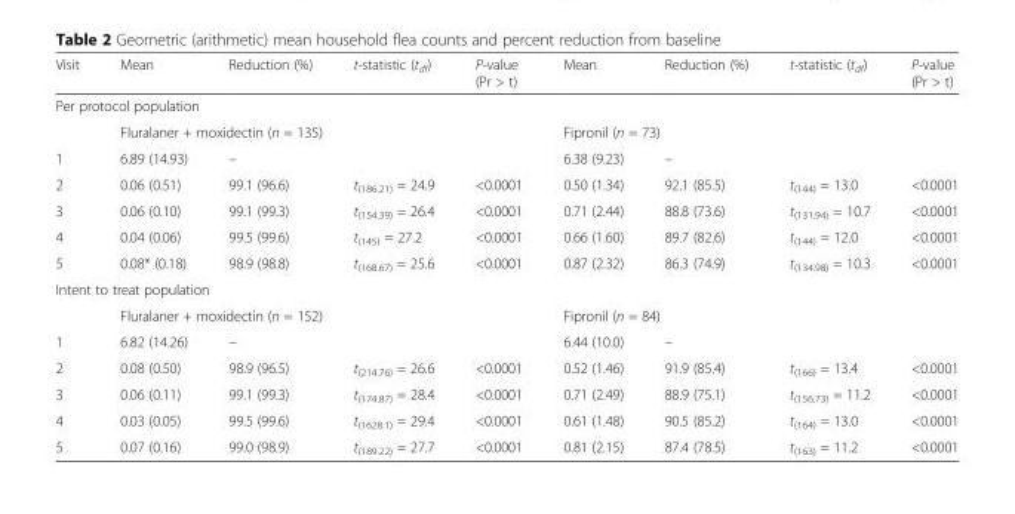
<table><thead><tr><td>Visit</td><td>Mean</td><td>Reduction (%)</td><td>t-statistic (t<sub>df</sub>)</td><td>P-value (Pr &gt; t)</td><td>Mean</td><td>Reduction (%)</td><td>t-statistic (t<sub>df</sub>)</td><td>P-value (Pr &gt; t)</td></tr></thead><tbody><tr><td colspan="9">Per protocol population</td></tr><tr><td></td><td colspan="4">Fluralaner + moxidectin (n = 135)</td><td colspan="4">Fipronil (n = 73)</td></tr><tr><td>1</td><td>6.89 (14.93)</td><td>–</td><td></td><td></td><td>6.38 (9.23)</td><td>–</td><td></td><td></td></tr><tr><td>2</td><td>0.06 (0.51)</td><td>99.1 (96.6)</td><td>t<sub>(186.21)</sub> = 24.9</td><td>&lt;0.0001</td><td>0.50 (1.34)</td><td>92.1 (85.5)</td><td>t<sub>(144)</sub> = 13.0</td><td>&lt;0.0001</td></tr><tr><td>3</td><td>0.06 (0.10)</td><td>99.1 (99.3)</td><td>t<sub>(154.39)</sub> = 26.4</td><td>&lt;0.0001</td><td>0.71 (2.44)</td><td>88.8 (73.6)</td><td>t<sub>(131.94)</sub> = 10.7</td><td>&lt;0.0001</td></tr><tr><td>4</td><td>0.04 (0.06)</td><td>99.5 (99.6)</td><td>t<sub>(145)</sub> = 27.2</td><td>&lt;0.0001</td><td>0.66 (1.60)</td><td>89.7 (82.6)</td><td>t<sub>(144)</sub> = 12.0</td><td>&lt;0.0001</td></tr><tr><td>5</td><td>0.08* (0.18)</td><td>98.9 (98.8)</td><td>t<sub>(168.67)</sub> = 25.6</td><td>&lt;0.0001</td><td>0.87 (2.32)</td><td>86.3 (74.9)</td><td>t<sub>(134.98)</sub> = 10.3</td><td>&lt;0.0001</td></tr><tr><td colspan="9">Intent to treat population</td></tr><tr><td></td><td colspan="4">Fluralaner + moxidectin (n = 152)</td><td colspan="4">Fipronil (n = 84)</td></tr><tr><td>1</td><td>6.82 (14.26)</td><td>–</td><td></td><td></td><td>6.44 (10.0)</td><td>–</td><td></td><td></td></tr><tr><td>2</td><td>0.08 (0.50)</td><td>98.9 (96.5)</td><td>t<sub>(214.76)</sub> = 26.6</td><td>&lt;0.0001</td><td>0.52 (1.46)</td><td>91.9 (85.4)</td><td>t<sub>(166)</sub> = 13.4</td><td>&lt;0.0001</td></tr><tr><td>3</td><td>0.06 (0.11)</td><td>99.1 (99.3)</td><td>t<sub>(174.87)</sub> = 28.4</td><td>&lt;0.0001</td><td>0.71 (2.49)</td><td>88.9 (75.1)</td><td>t<sub>(156.73)</sub> = 11.2</td><td>&lt;0.0001</td></tr><tr><td>4</td><td>0.03 (0.05)</td><td>99.5 (99.6)</td><td>t<sub>(1628.1)</sub> = 29.4</td><td>&lt;0.0001</td><td>0.61 (1.48)</td><td>90.5 (85.2)</td><td>t<sub>(164)</sub> = 13.0</td><td>&lt;0.0001</td></tr><tr><td>5</td><td>0.07 (0.16)</td><td>99.0 (98.9)</td><td>t<sub>(189.22)</sub> = 27.7</td><td>&lt;0.0001</td><td>0.81 (2.15)</td><td>87.4 (78.5)</td><td>t<sub>(163)</sub> = 11.2</td><td>&lt;0.0001</td></tr></tbody></table>